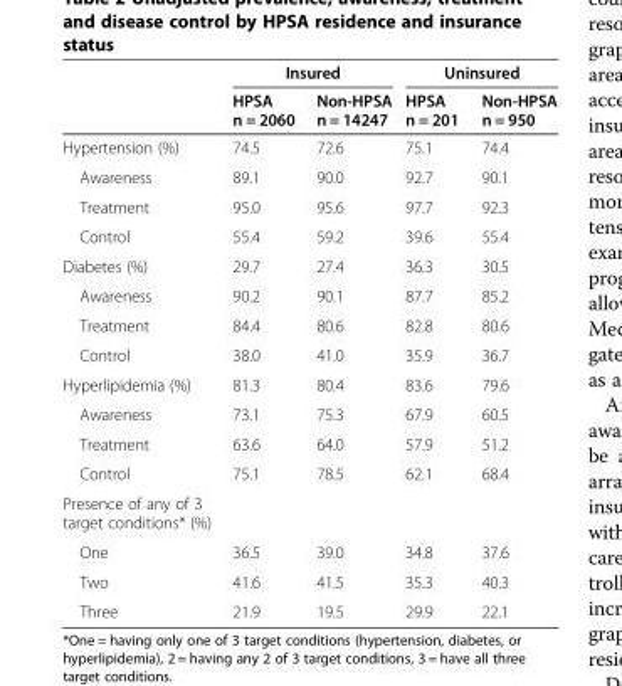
<table><thead><tr><td rowspan="2"></td><td colspan="2">Insured</td><td colspan="2">Uninsured</td></tr><tr><td>HPSA n = 2060</td><td>Non-HPSA n = 14247</td><td>HPSA n = 201</td><td>Non-HPSA n = 950</td></tr></thead><tbody><tr><td>Hypertension (%)</td><td>74.5</td><td>72.6</td><td>75.1</td><td>74.4</td></tr><tr><td>Awareness</td><td>89.1</td><td>90.0</td><td>92.7</td><td>90.1</td></tr><tr><td>Treatment</td><td>95.0</td><td>95.6</td><td>97.7</td><td>92.3</td></tr><tr><td>Control</td><td>55.4</td><td>59.2</td><td>39.6</td><td>55.4</td></tr><tr><td>Diabetes (%)</td><td>29.7</td><td>27.4</td><td>36.3</td><td>30.5</td></tr><tr><td>Awareness</td><td>90.2</td><td>90.1</td><td>87.7</td><td>85.2</td></tr><tr><td>Treatment</td><td>84.4</td><td>80.6</td><td>82.8</td><td>80.6</td></tr><tr><td>Control</td><td>38.0</td><td>41.0</td><td>35.9</td><td>36.7</td></tr><tr><td>Hyperlipidemia (%)</td><td>81.3</td><td>80.4</td><td>83.6</td><td>79.6</td></tr><tr><td>Awareness</td><td>73.1</td><td>75.3</td><td>67.9</td><td>60.5</td></tr><tr><td>Treatment</td><td>63.6</td><td>64.0</td><td>57.9</td><td>51.2</td></tr><tr><td>Control</td><td>75.1</td><td>78.5</td><td>62.1</td><td>68.4</td></tr><tr><td colspan="5">Presence of any of 3 target conditions* (%)</td></tr><tr><td>One</td><td>36.5</td><td>39.0</td><td>34.8</td><td>37.6</td></tr><tr><td>Two</td><td>41.6</td><td>41.5</td><td>35.3</td><td>40.3</td></tr><tr><td>Three</td><td>21.9</td><td>19.5</td><td>29.9</td><td>22.1</td></tr></tbody></table>